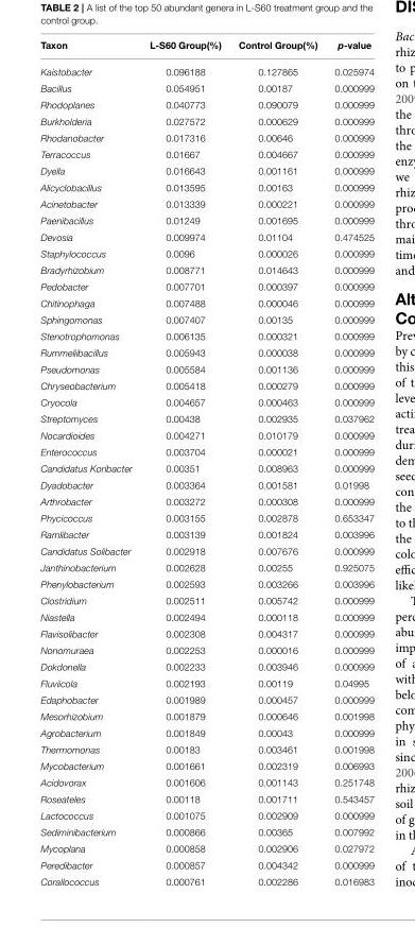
<table><thead><tr><td>Taxon</td><td>L-S60 Group(%)</td><td>Control Group(%)</td><td>p-value</td></tr></thead><tbody><tr><td>Kaistobacter</td><td>0.096188</td><td>0.127865</td><td>0.025974</td></tr><tr><td>Bacillus</td><td>0.054951</td><td>0.00187</td><td>0.000999</td></tr><tr><td>Rhodoplanes</td><td>0.040773</td><td>0.090079</td><td>0.000999</td></tr><tr><td>Burkholderia</td><td>0.027572</td><td>0.000629</td><td>0.000999</td></tr><tr><td>Rhodanobacter</td><td>0.017316</td><td>0.00646</td><td>0.000999</td></tr><tr><td>Terracoccus</td><td>0.01667</td><td>0.004667</td><td>0.000999</td></tr><tr><td>Dyella</td><td>0.016643</td><td>0.001161</td><td>0.000999</td></tr><tr><td>Alicyclobacillus</td><td>0.013595</td><td>0.00163</td><td>0.000999</td></tr><tr><td>Acinetobacter</td><td>0.013339</td><td>0.000221</td><td>0.000999</td></tr><tr><td>Paenibacillus</td><td>0.01249</td><td>0.001695</td><td>0.000999</td></tr><tr><td>Devosia</td><td>0.009974</td><td>0.01104</td><td>0.474525</td></tr><tr><td>Staphylococcus</td><td>0.0096</td><td>0.000026</td><td>0.000999</td></tr><tr><td>Bradyrhizobium</td><td>0.008771</td><td>0.014643</td><td>0.000999</td></tr><tr><td>Pedobacter</td><td>0.007701</td><td>0.000397</td><td>0.000999</td></tr><tr><td>Chitinophaga</td><td>0.007488</td><td>0.000046</td><td>0.000999</td></tr><tr><td>Sphingomonas</td><td>0.007407</td><td>0.00135</td><td>0.000999</td></tr><tr><td>Stenotrophomonas</td><td>0.006135</td><td>0.000321</td><td>0.000999</td></tr><tr><td>Rummeliibacillus</td><td>0.005943</td><td>0.000038</td><td>0.000999</td></tr><tr><td>Pseudomonas</td><td>0.005584</td><td>0.001136</td><td>0.000999</td></tr><tr><td>Chryseobacterium</td><td>0.005418</td><td>0.000279</td><td>0.000999</td></tr><tr><td>Cryocola</td><td>0.004657</td><td>0.000463</td><td>0.000999</td></tr><tr><td>Streptomyces</td><td>0.00438</td><td>0.002935</td><td>0.037962</td></tr><tr><td>Nocardioides</td><td>0.004271</td><td>0.010179</td><td>0.000999</td></tr><tr><td>Enterococcus</td><td>0.003704</td><td>0.000021</td><td>0.000999</td></tr><tr><td>Candidatus Koribacter</td><td>0.00351</td><td>0.008963</td><td>0.000999</td></tr><tr><td>Dyadobacter</td><td>0.003364</td><td>0.001581</td><td>0.01998</td></tr><tr><td>Arthrobacter</td><td>0.003272</td><td>0.000308</td><td>0.000999</td></tr><tr><td>Phycicoccus</td><td>0.003155</td><td>0.002878</td><td>0.653347</td></tr><tr><td>Ramlibacter</td><td>0.003139</td><td>0.001824</td><td>0.003996</td></tr><tr><td>Candidatus Solibacter</td><td>0.002918</td><td>0.007676</td><td>0.000999</td></tr><tr><td>Janthinobacterium</td><td>0.002628</td><td>0.00255</td><td>0.925075</td></tr><tr><td>Phenylobacterium</td><td>0.002593</td><td>0.003266</td><td>0.003996</td></tr><tr><td>Clostridium</td><td>0.002511</td><td>0.005742</td><td>0.000999</td></tr><tr><td>Niastella</td><td>0.002494</td><td>0.000118</td><td>0.000999</td></tr><tr><td>Flavisolibacter</td><td>0.002308</td><td>0.004317</td><td>0.000999</td></tr><tr><td>Nonomuraea</td><td>0.002253</td><td>0.000016</td><td>0.000999</td></tr><tr><td>Dokdonella</td><td>0.002233</td><td>0.003946</td><td>0.000999</td></tr><tr><td>Fluviicola</td><td>0.002193</td><td>0.00119</td><td>0.04995</td></tr><tr><td>Edaphobacter</td><td>0.001989</td><td>0.000457</td><td>0.000999</td></tr><tr><td>Mesorhizobium</td><td>0.001879</td><td>0.000646</td><td>0.001998</td></tr><tr><td>Agrobacterium</td><td>0.001849</td><td>0.00043</td><td>0.000999</td></tr><tr><td>Thermomonas</td><td>0.00183</td><td>0.003461</td><td>0.001998</td></tr><tr><td>Mycobacterium</td><td>0.001661</td><td>0.002319</td><td>0.006993</td></tr><tr><td>Acidovorax</td><td>0.001606</td><td>0.001143</td><td>0.251748</td></tr><tr><td>Roseateles</td><td>0.00118</td><td>0.001711</td><td>0.543457</td></tr><tr><td>Lactococcus</td><td>0.001075</td><td>0.002909</td><td>0.000999</td></tr><tr><td>Sediminibacterium</td><td>0.000866</td><td>0.00365</td><td>0.007992</td></tr><tr><td>Mycoplana</td><td>0.000858</td><td>0.002906</td><td>0.027972</td></tr><tr><td>Peredibacter</td><td>0.000857</td><td>0.004342</td><td>0.000999</td></tr><tr><td>Corallococcus</td><td>0.000761</td><td>0.002286</td><td>0.016983</td></tr></tbody></table>